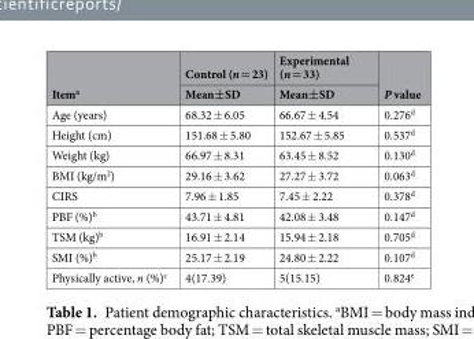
<table><thead><tr><td rowspan="2">Item<sup>a</sup></td><td rowspan="2">Control (n = 23) Mean±SD</td><td rowspan="2">Experimental (n = 33) Mean±SD</td><td rowspan="2">P value</td></tr><tr></tr></thead><tbody><tr><td>Age (years)</td><td>68.32 ± 6.05</td><td>66.67 ± 4.54</td><td>0.276<sup>d</sup></td></tr><tr><td>Height (cm)</td><td>151.68 ± 5.80</td><td>152.67 ± 5.85</td><td>0.537<sup>d</sup></td></tr><tr><td>Weight (kg)</td><td>66.97 ± 8.31</td><td>63.45 ± 8.52</td><td>0.130<sup>d</sup></td></tr><tr><td>BMI (kg/m<sup>2</sup>)</td><td>29.16 ± 3.62</td><td>27.27 ± 3.72</td><td>0.063<sup>d</sup></td></tr><tr><td>CIRS</td><td>7.96 ± 1.85</td><td>7.45 ± 2.22</td><td>0.378<sup>d</sup></td></tr><tr><td>PBF (%)<sup>b</sup></td><td>43.71 ± 4.81</td><td>42.08 ± 3.48</td><td>0.147<sup>d</sup></td></tr><tr><td>TSM (kg)<sup>b</sup></td><td>16.91 ± 2.14</td><td>15.94 ± 2.18</td><td>0.705<sup>d</sup></td></tr><tr><td>SMI (%)<sup>b</sup></td><td>25.17 ± 2.19</td><td>24.80 ± 2.22</td><td>0.107<sup>d</sup></td></tr><tr><td>Physically active, n (%)<sup>c</sup></td><td>4(17.39)</td><td>5(15.15)</td><td>0.824<sup>e</sup></td></tr></tbody></table>